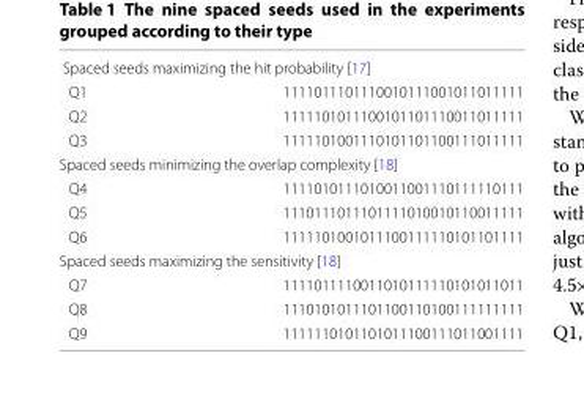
<table><tbody><tr><td colspan="2">Spaced seeds maximizing the hit probability [17]</td></tr><tr><td>Q1</td><td>1111011101110010111001011011111</td></tr><tr><td>Q2</td><td>1111101011100101101110011011111</td></tr><tr><td>Q3</td><td>1111101001110101101100111011111</td></tr><tr><td colspan="2">Spaced seeds minimizing the overlap complexity [18]</td></tr><tr><td>Q4</td><td>1111010111010011001110111110111</td></tr><tr><td>Q5</td><td>1110111011101111010010110011111</td></tr><tr><td>Q6</td><td>1111101001011100111110101101111</td></tr><tr><td colspan="2">Spaced seeds maximizing the sensitivity [18]</td></tr><tr><td>Q7</td><td>1111011110011010111110101011011</td></tr><tr><td>Q8</td><td>1110101011101100110100111111111</td></tr><tr><td>Q9</td><td>1111110101101011100111011001111</td></tr></tbody></table>